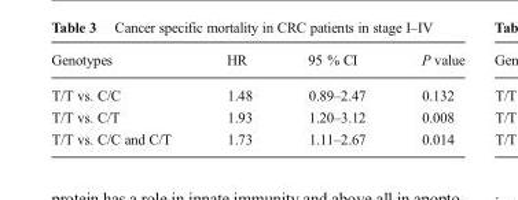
<table><thead><tr><td>Genotypes</td><td>HR</td><td>95 % CI</td><td>P value</td></tr></thead><tbody><tr><td>T/T vs. C/C</td><td>1.48</td><td>0.89–2.47</td><td>0.132</td></tr><tr><td>T/T vs. C/T</td><td>1.93</td><td>1.20–3.12</td><td>0.008</td></tr><tr><td>T/T vs. C/C and C/T</td><td>1.73</td><td>1.11–2.67</td><td>0.014</td></tr></tbody></table>